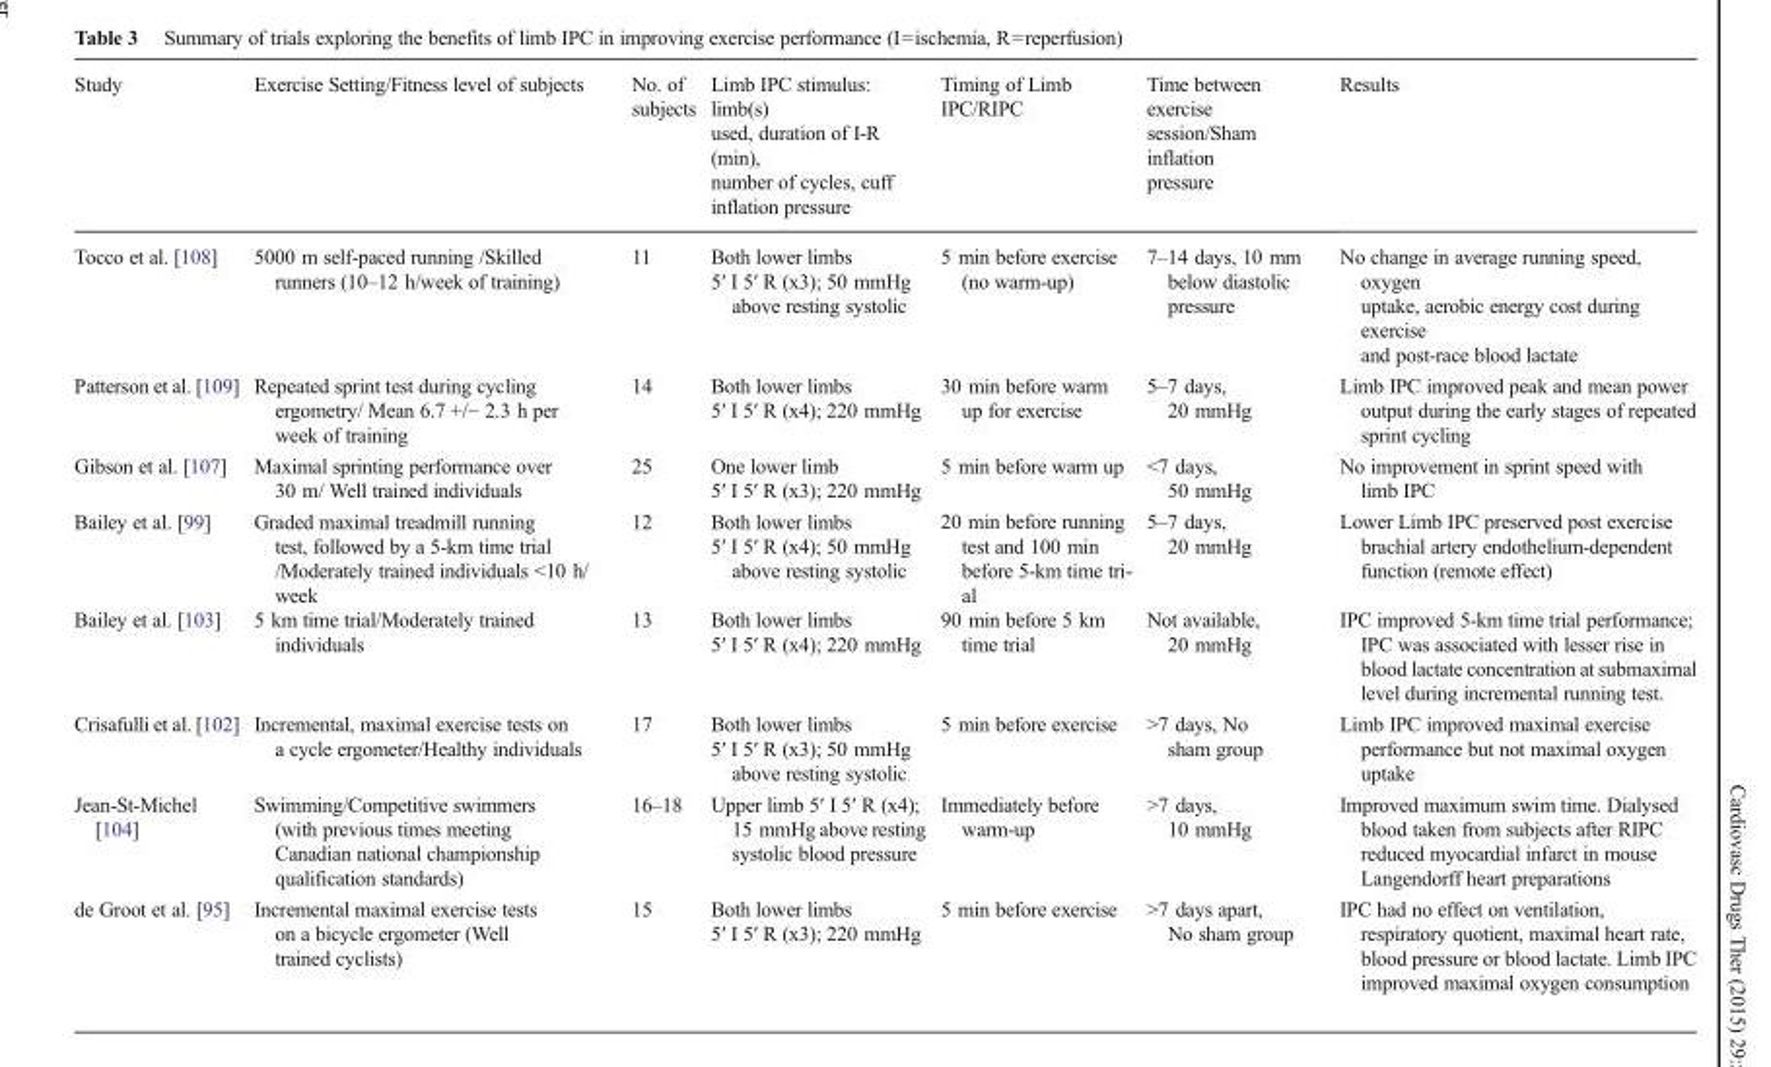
<table><thead><tr><td>Study</td><td>Exercise Setting/Fitness level of subjects</td><td>No. of subjects</td><td>Limb IPC stimulus: limb(s) used, duration of I-R (min), number of cycles, cuff inflation pressure</td><td>Timing of Limb IPC/RIPC</td><td>Time between exercise session/Sham inflation pressure</td><td>Results</td></tr></thead><tbody><tr><td>Tocco et al. [108]</td><td>5000 m self-paced running /Skilled runners (10–12 h/week of training)</td><td>11</td><td>Both lower limbs 5′ I 5′ R (x3); 50 mmHg above resting systolic</td><td>5 min before exercise (no warm-up)</td><td>7–14 days, 10 mm below diastolic pressure</td><td>No change in average running speed, oxygen uptake, aerobic energy cost during exercise and post-race blood lactate</td></tr><tr><td>Patterson et al. [109]</td><td>Repeated sprint test during cycling ergometry/ Mean 6.7 +/− 2.3 h per week of training</td><td>14</td><td>Both lower limbs 5′ I 5′ R (x4); 220 mmHg</td><td>30 min before warm up for exercise</td><td>5–7 days, 20 mmHg</td><td>Limb IPC improved peak and mean power output during the early stages of repeated sprint cycling</td></tr><tr><td>Gibson et al. [107]</td><td>Maximal sprinting performance over 30 m/ Well trained individuals</td><td>25</td><td>One lower limb 5′ I 5′ R (x3); 220 mmHg</td><td>5 min before warm up</td><td>&lt;7 days, 50 mmHg</td><td>No improvement in sprint speed with limb IPC</td></tr><tr><td>Bailey et al. [99]</td><td>Graded maximal treadmill running test, followed by a 5-km time trial /Moderately trained individuals &lt;10 h/ week</td><td>12</td><td>Both lower limbs 5′ I 5′ R (x4); 50 mmHg above resting systolic</td><td>20 min before running test and 100 min before 5-km time tri- al</td><td>5–7 days, 20 mmHg</td><td>Lower Limb IPC preserved post exercise brachial artery endothelium-dependent function (remote effect)</td></tr><tr><td>Bailey et al. [103]</td><td>5 km time trial/Moderately trained individuals</td><td>13</td><td>Both lower limbs 5′ I 5′ R (x4); 220 mmHg</td><td>90 min before 5 km time trial</td><td>Not available, 20 mmHg</td><td>IPC improved 5-km time trial performance; IPC was associated with lesser rise in blood lactate concentration at submaximal level during incremental running test.</td></tr><tr><td>Crisafulli et al. [102]</td><td>Incremental, maximal exercise tests on a cycle ergometer/Healthy individuals</td><td>17</td><td>Both lower limbs 5′ I 5′ R (x3); 50 mmHg above resting systolic</td><td>5 min before exercise</td><td>&gt;7 days, No sham group</td><td>Limb IPC improved maximal exercise performance but not maximal oxygen uptake</td></tr><tr><td>Jean-St-Michel [104]</td><td>Swimming/Competitive swimmers (with previous times meeting Canadian national championship qualification standards)</td><td>16–18</td><td>Upper limb 5′ I 5′ R (x4); 15 mmHg above resting systolic blood pressure</td><td>Immediately before warm-up</td><td>&gt;7 days, 10 mmHg</td><td>Improved maximum swim time. Dialysed blood taken from subjects after RIPC reduced myocardial infarct in mouse Langendorff heart preparations</td></tr><tr><td>de Groot et al. [95]</td><td>Incremental maximal exercise tests on a bicycle ergometer (Well trained cyclists)</td><td>15</td><td>Both lower limbs 5′ I 5′ R (x3); 220 mmHg</td><td>5 min before exercise</td><td>&gt;7 days apart, No sham group</td><td>IPC had no effect on ventilation, respiratory quotient, maximal heart rate, blood pressure or blood lactate. Limb IPC improved maximal oxygen consumption</td></tr></tbody></table>